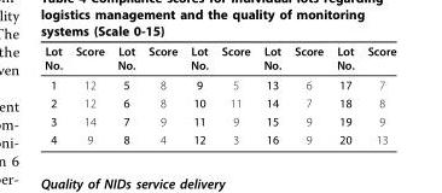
<table><thead><tr><td>Lot No.</td><td>Score</td><td>Lot No.</td><td>Score</td><td>Lot No.</td><td>Score</td><td>Lot No.</td><td>Score</td><td>Lot No.</td><td>Score</td></tr></thead><tbody><tr><td>1</td><td>12</td><td>5</td><td>8</td><td>9</td><td>5</td><td>13</td><td>6</td><td>17</td><td>7</td></tr><tr><td>2</td><td>12</td><td>6</td><td>8</td><td>10</td><td>11</td><td>14</td><td>7</td><td>18</td><td>8</td></tr><tr><td>3</td><td>14</td><td>7</td><td>9</td><td>11</td><td>9</td><td>15</td><td>9</td><td>19</td><td>9</td></tr><tr><td>4</td><td>9</td><td>8</td><td>4</td><td>12</td><td>3</td><td>16</td><td>9</td><td>20</td><td>13</td></tr></tbody></table>